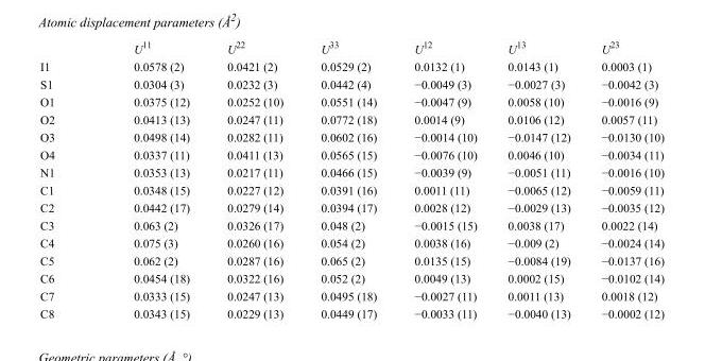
<table><thead><tr><td></td><td>U<sup>11</sup></td><td>U<sup>22</sup></td><td>U<sup>33</sup></td><td>U<sup>12</sup></td><td>U<sup>13</sup></td><td>U<sup>23</sup></td></tr></thead><tbody><tr><td>I1</td><td>0.0578 (2)</td><td>0.0421 (2)</td><td>0.0529 (2)</td><td>0.0132 (1)</td><td>0.0143 (1)</td><td>0.0003 (1)</td></tr><tr><td>S1</td><td>0.0304 (3)</td><td>0.0232 (3)</td><td>0.0442 (4)</td><td>−0.0049 (3)</td><td>−0.0027 (3)</td><td>−0.0042 (3)</td></tr><tr><td>O1</td><td>0.0375 (12)</td><td>0.0252 (10)</td><td>0.0551 (14)</td><td>−0.0047 (9)</td><td>0.0058 (10)</td><td>−0.0016 (9)</td></tr><tr><td>O2</td><td>0.0413 (13)</td><td>0.0247 (11)</td><td>0.0772 (18)</td><td>0.0014 (9)</td><td>0.0106 (12)</td><td>0.0057 (11)</td></tr><tr><td>O3</td><td>0.0498 (14)</td><td>0.0282 (11)</td><td>0.0602 (16)</td><td>−0.0014 (10)</td><td>−0.0147 (12)</td><td>−0.0130 (10)</td></tr><tr><td>O4</td><td>0.0337 (11)</td><td>0.0411 (13)</td><td>0.0565 (15)</td><td>−0.0076 (10)</td><td>0.0046 (10)</td><td>−0.0034 (11)</td></tr><tr><td>N1</td><td>0.0353 (13)</td><td>0.0217 (11)</td><td>0.0466 (15)</td><td>−0.0039 (9)</td><td>−0.0051 (11)</td><td>−0.0016 (10)</td></tr><tr><td>C1</td><td>0.0348 (15)</td><td>0.0227 (12)</td><td>0.0391 (16)</td><td>0.0011 (11)</td><td>−0.0065 (12)</td><td>−0.0059 (11)</td></tr><tr><td>C2</td><td>0.0442 (17)</td><td>0.0279 (14)</td><td>0.0394 (17)</td><td>0.0028 (12)</td><td>−0.0029 (13)</td><td>−0.0035 (12)</td></tr><tr><td>C3</td><td>0.063 (2)</td><td>0.0326 (17)</td><td>0.048 (2)</td><td>−0.0015 (15)</td><td>0.0038 (17)</td><td>0.0022 (14)</td></tr><tr><td>C4</td><td>0.075 (3)</td><td>0.0260 (16)</td><td>0.054 (2)</td><td>0.0038 (16)</td><td>−0.009 (2)</td><td>−0.0024 (14)</td></tr><tr><td>C5</td><td>0.062 (2)</td><td>0.0287 (16)</td><td>0.065 (2)</td><td>0.0135 (15)</td><td>−0.0084 (19)</td><td>−0.0137 (16)</td></tr><tr><td>C6</td><td>0.0454 (18)</td><td>0.0322 (16)</td><td>0.052 (2)</td><td>0.0049 (13)</td><td>0.0002 (15)</td><td>−0.0102 (14)</td></tr><tr><td>C7</td><td>0.0333 (15)</td><td>0.0247 (13)</td><td>0.0495 (18)</td><td>−0.0027 (11)</td><td>0.0011 (13)</td><td>0.0018 (12)</td></tr><tr><td>C8</td><td>0.0343 (15)</td><td>0.0229 (13)</td><td>0.0449 (17)</td><td>−0.0033 (11)</td><td>−0.0040 (13)</td><td>−0.0002 (12)</td></tr></tbody></table>